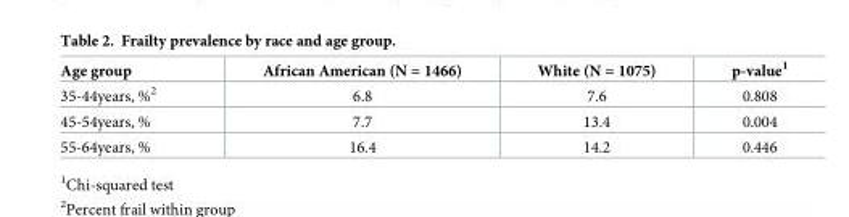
<table><thead><tr><td>Age group</td><td>African American (N = 1466)</td><td>White (N = 1075)</td><td>p-value<sup>1</sup></td></tr></thead><tbody><tr><td>35-44years, %<sup>2</sup></td><td>6.8</td><td>7.6</td><td>0.808</td></tr><tr><td>45-54years, %</td><td>7.7</td><td>13.4</td><td>0.004</td></tr><tr><td>55-64years, %</td><td>16.4</td><td>14.2</td><td>0.446</td></tr></tbody></table>